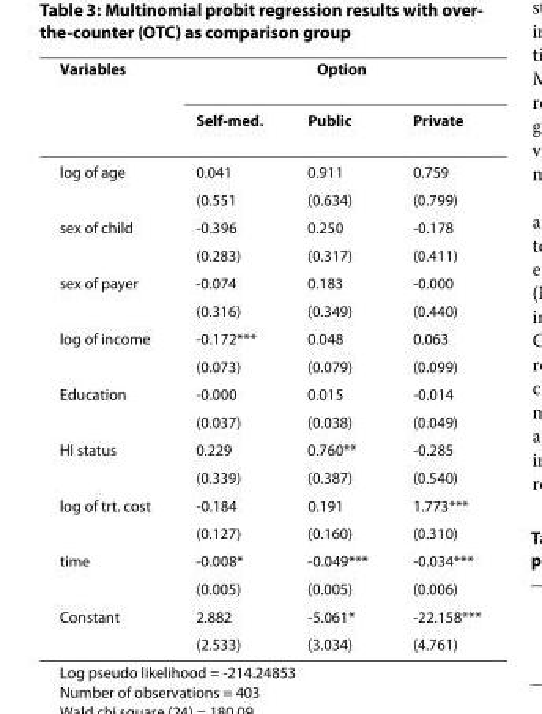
<table><thead><tr><td rowspan="2">Variables</td><td colspan="3">Option</td></tr><tr><td>Self-med.</td><td>Public</td><td>Private</td></tr></thead><tbody><tr><td rowspan="2">log of age</td><td>0.041</td><td>0.911</td><td>0.759</td></tr><tr><td>(0.551</td><td>(0.634)</td><td>(0.799)</td></tr><tr><td rowspan="2">sex of child</td><td>-0.396</td><td>0.250</td><td>-0.178</td></tr><tr><td>(0.283)</td><td>(0.317)</td><td>(0.411)</td></tr><tr><td rowspan="2">sex of payer</td><td>-0.074</td><td>0.183</td><td>-0.000</td></tr><tr><td>(0.316)</td><td>(0.349)</td><td>(0.440)</td></tr><tr><td rowspan="2">log of income</td><td>-0.172***</td><td>0.048</td><td>0.063</td></tr><tr><td>(0.073)</td><td>(0.079)</td><td>(0.099)</td></tr><tr><td rowspan="2">Education</td><td>-0.000</td><td>0.015</td><td>-0.014</td></tr><tr><td>(0.037)</td><td>(0.038)</td><td>(0.049)</td></tr><tr><td rowspan="2">HI status</td><td>0.229</td><td>0.760**</td><td>-0.285</td></tr><tr><td>(0.339)</td><td>(0.387)</td><td>(0.540)</td></tr><tr><td rowspan="2">log of trt. cost</td><td>-0.184</td><td>0.191</td><td>1.773***</td></tr><tr><td>(0.127)</td><td>(0.160)</td><td>(0.310)</td></tr><tr><td rowspan="2">time</td><td>-0.008*</td><td>-0.049***</td><td>-0.034***</td></tr><tr><td>(0.005)</td><td>(0.005)</td><td>(0.006)</td></tr><tr><td rowspan="2">Constant</td><td>2.882</td><td>-5.061*</td><td>-22.158***</td></tr><tr><td>(2.533)</td><td>(3.034)</td><td>(4.761)</td></tr></tbody></table>